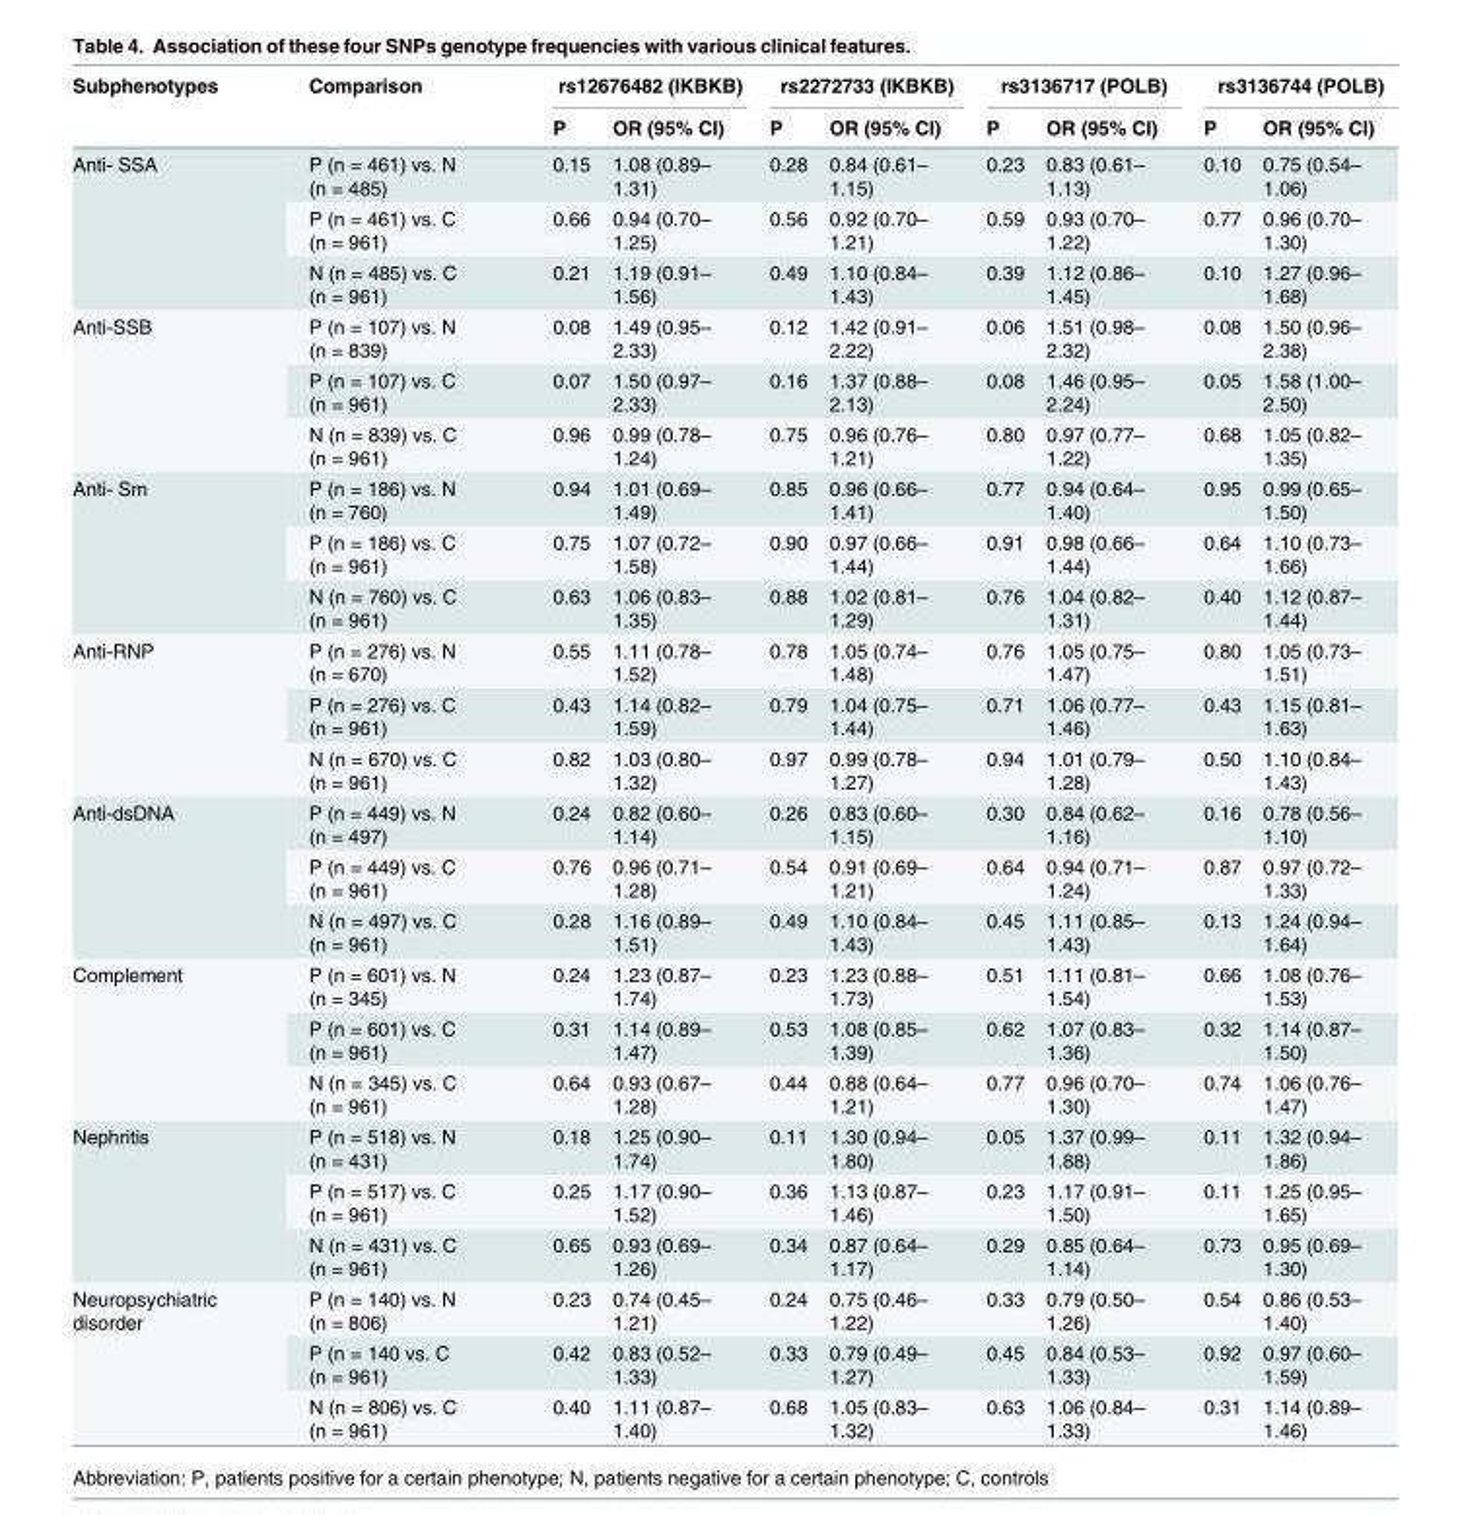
<table><thead><tr><td rowspan="2">Subphenotypes</td><td rowspan="2">Comparison</td><td colspan="2">rs12676482 (IKBKB)</td><td colspan="2">rs2272733 (IKBKB)</td><td colspan="2">rs3136717 (POLB)</td><td colspan="2">rs3136744 (POLB)</td></tr><tr><td>P</td><td>OR (95% CI)</td><td>P</td><td>OR (95% CI)</td><td>P</td><td>OR (95% CI)</td><td>P</td><td>OR (95% CI)</td></tr></thead><tbody><tr><td rowspan="3">Anti- SSA</td><td>P (n = 461) vs. N (n = 485)</td><td>0.15</td><td>1.08 (0.89– 1.31)</td><td>0.28</td><td>0.84 (0.61– 1.15)</td><td>0.23</td><td>0.83 (0.61– 1.13)</td><td>0.10</td><td>0.75 (0.54– 1.06)</td></tr><tr><td>P (n = 461) vs. C (n = 961)</td><td>0.66</td><td>0.94 (0.70– 1.25)</td><td>0.56</td><td>0.92 (0.70– 1.21)</td><td>0.59</td><td>0.93 (0.70– 1.22)</td><td>0.77</td><td>0.96 (0.70– 1.30)</td></tr><tr><td>N (n = 485) vs. C (n = 961)</td><td>0.21</td><td>1.19 (0.91– 1.56)</td><td>0.49</td><td>1.10 (0.84– 1.43)</td><td>0.39</td><td>1.12 (0.86– 1.45)</td><td>0.10</td><td>1.27 (0.96– 1.68)</td></tr><tr><td rowspan="3">Anti-SSB</td><td>P (n = 107) vs. N (n = 839)</td><td>0.08</td><td>1.49 (0.95– 2.33)</td><td>0.12</td><td>1.42 (0.91– 2.22)</td><td>0.06</td><td>1.51 (0.98– 2.32)</td><td>0.08</td><td>1.50 (0.96– 2.38)</td></tr><tr><td>P (n = 107) vs. C (n = 961)</td><td>0.07</td><td>1.50 (0.97– 2.33)</td><td>0.16</td><td>1.37 (0.88– 2.13)</td><td>0.08</td><td>1.46 (0.95– 2.24)</td><td>0.05</td><td>1.58 (1.00– 2.50)</td></tr><tr><td>N (n = 839) vs. C (n = 961)</td><td>0.96</td><td>0.99 (0.78– 1.24)</td><td>0.75</td><td>0.96 (0.76– 1.21)</td><td>0.80</td><td>0.97 (0.77– 1.22)</td><td>0.68</td><td>1.05 (0.82– 1.35)</td></tr><tr><td rowspan="3">Anti- Sm</td><td>P (n = 186) vs. N (n = 760)</td><td>0.94</td><td>1.01 (0.69– 1.49)</td><td>0.85</td><td>0.96 (0.66– 1.41)</td><td>0.77</td><td>0.94 (0.64– 1.40)</td><td>0.95</td><td>0.99 (0.65– 1.50)</td></tr><tr><td>P (n = 186) vs. C (n = 961)</td><td>0.75</td><td>1.07 (0.72– 1.58)</td><td>0.90</td><td>0.97 (0.66– 1.44)</td><td>0.91</td><td>0.98 (0.66– 1.44)</td><td>0.64</td><td>1.10 (0.73– 1.66)</td></tr><tr><td>N (n = 760) vs. C (n = 961)</td><td>0.63</td><td>1.06 (0.83– 1.35)</td><td>0.88</td><td>1.02 (0.81– 1.29)</td><td>0.76</td><td>1.04 (0.82– 1.31)</td><td>0.40</td><td>1.12 (0.87– 1.44)</td></tr><tr><td rowspan="3">Anti-RNP</td><td>P (n = 276) vs. N (n = 670)</td><td>0.55</td><td>1.11 (0.78– 1.52)</td><td>0.78</td><td>1.05 (0.74– 1.48)</td><td>0.76</td><td>1.05 (0.75– 1.47)</td><td>0.80</td><td>1.05 (0.73– 1.51)</td></tr><tr><td>P (n = 276) vs. C (n = 961)</td><td>0.43</td><td>1.14 (0.82– 1.59)</td><td>0.79</td><td>1.04 (0.75– 1.44)</td><td>0.71</td><td>1.06 (0.77– 1.46)</td><td>0.43</td><td>1.15 (0.81– 1.63)</td></tr><tr><td>N (n = 670) vs. C (n = 961)</td><td>0.82</td><td>1.03 (0.80– 1.32)</td><td>0.97</td><td>0.99 (0.78– 1.27)</td><td>0.94</td><td>1.01 (0.79– 1.28)</td><td>0.50</td><td>1.10 (0.84– 1.43)</td></tr><tr><td rowspan="3">Anti-dsDNA</td><td>P (n = 449) vs. N (n = 497)</td><td>0.24</td><td>0.82 (0.60– 1.14)</td><td>0.26</td><td>0.83 (0.60– 1.15)</td><td>0.30</td><td>0.84 (0.62– 1.16)</td><td>0.16</td><td>0.78 (0.56– 1.10)</td></tr><tr><td>P (n = 449) vs. C (n = 961)</td><td>0.76</td><td>0.96 (0.71– 1.28)</td><td>0.54</td><td>0.91 (0.69– 1.21)</td><td>0.64</td><td>0.94 (0.71– 1.24)</td><td>0.87</td><td>0.97 (0.72– 1.33)</td></tr><tr><td>N (n = 497) vs. C (n = 961)</td><td>0.28</td><td>1.16 (0.89– 1.51)</td><td>0.49</td><td>1.10 (0.84– 1.43)</td><td>0.45</td><td>1.11 (0.85– 1.43)</td><td>0.13</td><td>1.24 (0.94– 1.64)</td></tr><tr><td rowspan="3">Complement</td><td>P (n = 601) vs. N (n = 345)</td><td>0.24</td><td>1.23 (0.87– 1.74)</td><td>0.23</td><td>1.23 (0.88– 1.73)</td><td>0.51</td><td>1.11 (0.81– 1.54)</td><td>0.66</td><td>1.08 (0.76– 1.53)</td></tr><tr><td>P (n = 601) vs. C (n = 961)</td><td>0.31</td><td>1.14 (0.89– 1.47)</td><td>0.53</td><td>1.08 (0.85– 1.39)</td><td>0.62</td><td>1.07 (0.83– 1.36)</td><td>0.32</td><td>1.14 (0.87– 1.50)</td></tr><tr><td>N (n = 345) vs. C (n = 961)</td><td>0.64</td><td>0.93 (0.67– 1.28)</td><td>0.44</td><td>0.88 (0.64– 1.21)</td><td>0.77</td><td>0.96 (0.70– 1.30)</td><td>0.74</td><td>1.06 (0.76– 1.47)</td></tr><tr><td rowspan="3">Nephritis</td><td>P (n = 518) vs. N (n = 431)</td><td>0.18</td><td>1.25 (0.90– 1.74)</td><td>0.11</td><td>1.30 (0.94– 1.80)</td><td>0.05</td><td>1.37 (0.99– 1.88)</td><td>0.11</td><td>1.32 (0.94– 1.86)</td></tr><tr><td>P (n = 517) vs. C (n = 961)</td><td>0.25</td><td>1.17 (0.90– 1.52)</td><td>0.36</td><td>1.13 (0.87– 1.46)</td><td>0.23</td><td>1.17 (0.91– 1.50)</td><td>0.11</td><td>1.25 (0.95– 1.65)</td></tr><tr><td>N (n = 431) vs. C (n = 961)</td><td>0.65</td><td>0.93 (0.69– 1.26)</td><td>0.34</td><td>0.87 (0.64– 1.17)</td><td>0.29</td><td>0.85 (0.64– 1.14)</td><td>0.73</td><td>0.95 (0.69– 1.30)</td></tr><tr><td rowspan="3">Neuropsychiatric disorder</td><td>P (n = 140) vs. N (n = 806)</td><td>0.23</td><td>0.74 (0.45– 1.21)</td><td>0.24</td><td>0.75 (0.46– 1.22)</td><td>0.33</td><td>0.79 (0.50– 1.26)</td><td>0.54</td><td>0.86 (0.53– 1.40)</td></tr><tr><td>P (n = 140 vs. C (n = 961)</td><td>0.42</td><td>0.83 (0.52– 1.33)</td><td>0.33</td><td>0.79 (0.49– 1.27)</td><td>0.45</td><td>0.84 (0.53– 1.33)</td><td>0.92</td><td>0.97 (0.60– 1.59)</td></tr><tr><td>N (n = 806) vs. C (n = 961)</td><td>0.40</td><td>1.11 (0.87– 1.40)</td><td>0.68</td><td>1.05 (0.83– 1.32)</td><td>0.63</td><td>1.06 (0.84– 1.33)</td><td>0.31</td><td>1.14 (0.89– 1.46)</td></tr></tbody></table>